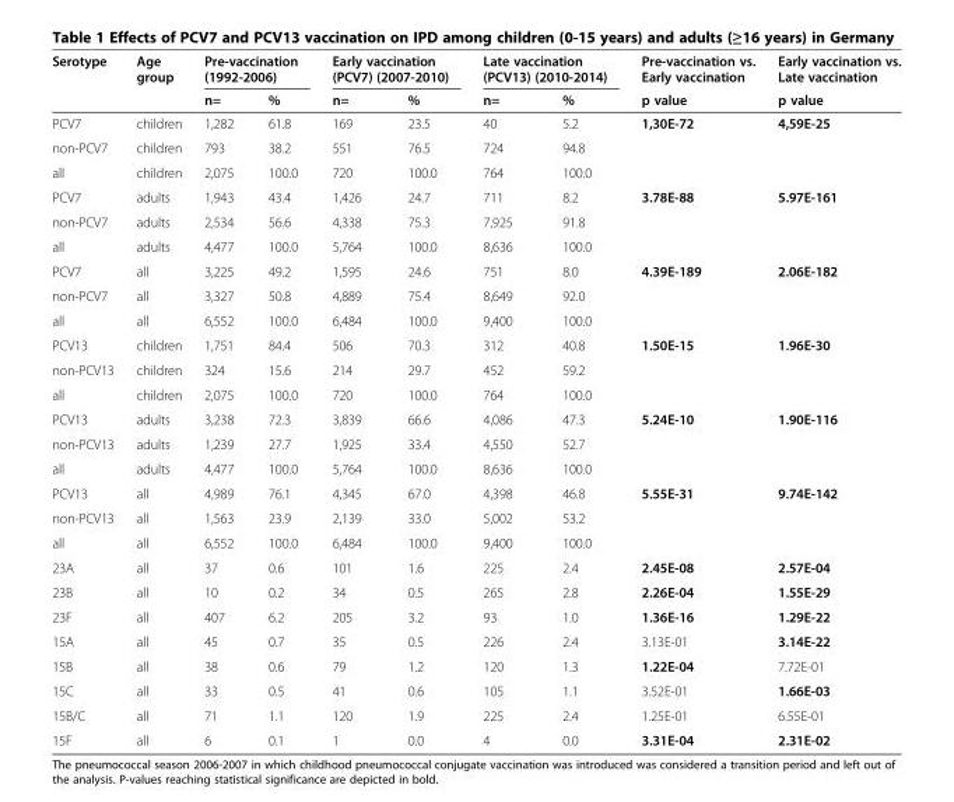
<table><thead><tr><td rowspan="2">Serotype</td><td rowspan="2">Age group</td><td colspan="2">Pre-vaccination (1992-2006)</td><td colspan="2">Early vaccination (PCV7) (2007-2010)</td><td colspan="2">Late vaccination (PCV13) (2010-2014)</td><td rowspan="2">Pre-vaccination vs. Early vaccination p value</td><td rowspan="2">Early vaccination vs. Late vaccination p value</td></tr><tr><td>n=</td><td>%</td><td>n=</td><td>%</td><td>n=</td><td>%</td></tr></thead><tbody><tr><td>PCV7</td><td>children</td><td>1,282</td><td>61.8</td><td>169</td><td>23.5</td><td>40</td><td>5.2</td><td>1,30E-72</td><td>4,59E-25</td></tr><tr><td>non-PCV7</td><td>children</td><td>793</td><td>38.2</td><td>551</td><td>76.5</td><td>724</td><td>94.8</td><td></td><td></td></tr><tr><td>all</td><td>children</td><td>2,075</td><td>100.0</td><td>720</td><td>100.0</td><td>764</td><td>100.0</td><td></td><td></td></tr><tr><td>PCV7</td><td>adults</td><td>1,943</td><td>43.4</td><td>1,426</td><td>24.7</td><td>711</td><td>8.2</td><td>3.78E-88</td><td>5.97E-161</td></tr><tr><td>non-PCV7</td><td>adults</td><td>2,534</td><td>56.6</td><td>4,338</td><td>75.3</td><td>7,925</td><td>91.8</td><td></td><td></td></tr><tr><td>all</td><td>adults</td><td>4,477</td><td>100.0</td><td>5,764</td><td>100.0</td><td>8,636</td><td>100.0</td><td></td><td></td></tr><tr><td>PCV7</td><td>all</td><td>3,225</td><td>49.2</td><td>1,595</td><td>24.6</td><td>751</td><td>8.0</td><td>4.39E-189</td><td>2.06E-182</td></tr><tr><td>non-PCV7</td><td>all</td><td>3,327</td><td>50.8</td><td>4,889</td><td>75.4</td><td>8,649</td><td>92.0</td><td></td><td></td></tr><tr><td>all</td><td>all</td><td>6,552</td><td>100.0</td><td>6,484</td><td>100.0</td><td>9,400</td><td>100.0</td><td></td><td></td></tr><tr><td>PCV13</td><td>children</td><td>1,751</td><td>84.4</td><td>506</td><td>70.3</td><td>312</td><td>40.8</td><td>1.50E-15</td><td>1.96E-30</td></tr><tr><td>non-PCV13</td><td>children</td><td>324</td><td>15.6</td><td>214</td><td>29.7</td><td>452</td><td>59.2</td><td></td><td></td></tr><tr><td>all</td><td>children</td><td>2,075</td><td>100.0</td><td>720</td><td>100.0</td><td>764</td><td>100.0</td><td></td><td></td></tr><tr><td>PCV13</td><td>adults</td><td>3,238</td><td>72.3</td><td>3,839</td><td>66.6</td><td>4,086</td><td>47.3</td><td>5.24E-10</td><td>1.90E-116</td></tr><tr><td>non-PCV13</td><td>adults</td><td>1,239</td><td>27.7</td><td>1,925</td><td>33.4</td><td>4,550</td><td>52.7</td><td></td><td></td></tr><tr><td>all</td><td>adults</td><td>4,477</td><td>100.0</td><td>5,764</td><td>100.0</td><td>8,636</td><td>100.0</td><td></td><td></td></tr><tr><td>PCV13</td><td>all</td><td>4,989</td><td>76.1</td><td>4,345</td><td>67.0</td><td>4,398</td><td>46.8</td><td>5.55E-31</td><td>9.74E-142</td></tr><tr><td>non-PCV13</td><td>all</td><td>1,563</td><td>23.9</td><td>2,139</td><td>33.0</td><td>5,002</td><td>53.2</td><td></td><td></td></tr><tr><td>all</td><td>all</td><td>6,552</td><td>100.0</td><td>6,484</td><td>100.0</td><td>9,400</td><td>100.0</td><td></td><td></td></tr><tr><td>23A</td><td>all</td><td>37</td><td>0.6</td><td>101</td><td>1.6</td><td>225</td><td>2.4</td><td>2.45E-08</td><td>2.57E-04</td></tr><tr><td>23B</td><td>all</td><td>10</td><td>0.2</td><td>34</td><td>0.5</td><td>265</td><td>2.8</td><td>2.26E-04</td><td>1.55E-29</td></tr><tr><td>23F</td><td>all</td><td>407</td><td>6.2</td><td>205</td><td>3.2</td><td>93</td><td>1.0</td><td>1.36E-16</td><td>1.29E-22</td></tr><tr><td>15A</td><td>all</td><td>45</td><td>0.7</td><td>35</td><td>0.5</td><td>226</td><td>2.4</td><td>3.13E-01</td><td>3.14E-22</td></tr><tr><td>15B</td><td>all</td><td>38</td><td>0.6</td><td>79</td><td>1.2</td><td>120</td><td>1.3</td><td>1.22E-04</td><td>7.72E-01</td></tr><tr><td>15C</td><td>all</td><td>33</td><td>0.5</td><td>41</td><td>0.6</td><td>105</td><td>1.1</td><td>3.52E-01</td><td>1.66E-03</td></tr><tr><td>15B/C</td><td>all</td><td>71</td><td>1.1</td><td>120</td><td>1.9</td><td>225</td><td>2.4</td><td>1.25E-01</td><td>6.55E-01</td></tr><tr><td>15F</td><td>all</td><td>6</td><td>0.1</td><td>1</td><td>0.0</td><td>4</td><td>0.0</td><td>3.31E-04</td><td>2.31E-02</td></tr></tbody></table>